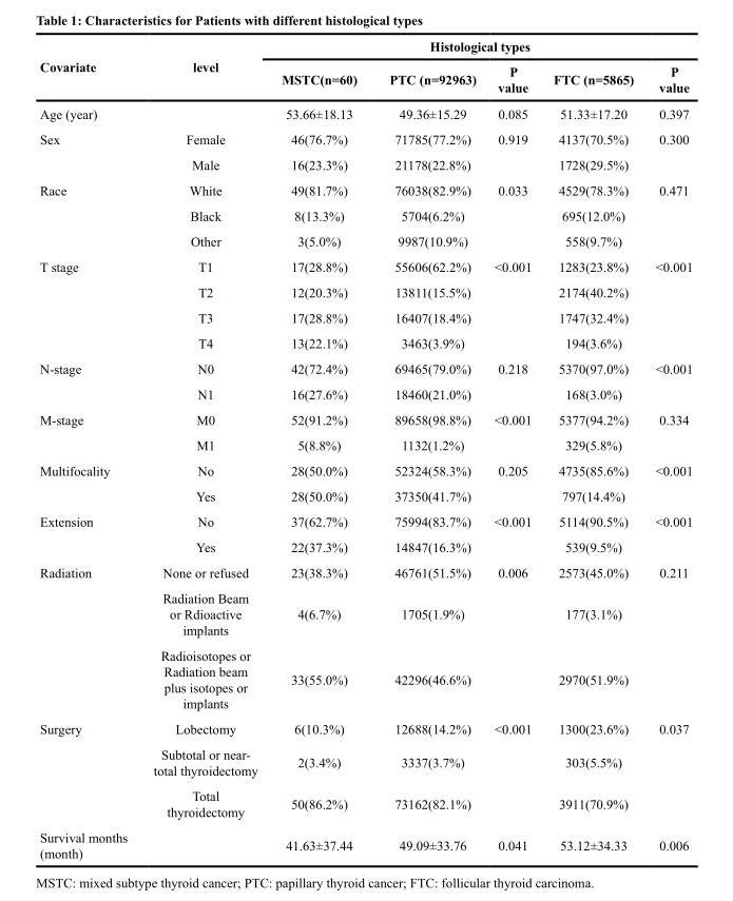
<table><thead><tr><td rowspan="2">Covariate</td><td rowspan="2">level</td><td colspan="5">Histological types</td></tr><tr><td>MSTC(n=60)</td><td>PTC (n=92963)</td><td>P value</td><td>FTC (n=5865)</td><td>P value</td></tr></thead><tbody><tr><td>Age (year)</td><td></td><td>53.66±18.13</td><td>49.36±15.29</td><td>0.085</td><td>51.33±17.20</td><td>0.397</td></tr><tr><td rowspan="2">Sex</td><td>Female</td><td>46(76.7%)</td><td>71785(77.2%)</td><td>0.919</td><td>4137(70.5%)</td><td>0.300</td></tr><tr><td>Male</td><td>16(23.3%)</td><td>21178(22.8%)</td><td></td><td>1728(29.5%)</td><td></td></tr><tr><td rowspan="3">Race</td><td>White</td><td>49(81.7%)</td><td>76038(82.9%)</td><td>0.033</td><td>4529(78.3%)</td><td>0.471</td></tr><tr><td>Black</td><td>8(13.3%)</td><td>5704(6.2%)</td><td></td><td>695(12.0%)</td><td></td></tr><tr><td>Other</td><td>3(5.0%)</td><td>9987(10.9%)</td><td></td><td>558(9.7%)</td><td></td></tr><tr><td rowspan="4">T stage</td><td>T1</td><td>17(28.8%)</td><td>55606(62.2%)</td><td>&lt;0.001</td><td>1283(23.8%)</td><td>&lt;0.001</td></tr><tr><td>T2</td><td>12(20.3%)</td><td>13811(15.5%)</td><td></td><td>2174(40.2%)</td><td></td></tr><tr><td>T3</td><td>17(28.8%)</td><td>16407(18.4%)</td><td></td><td>1747(32.4%)</td><td></td></tr><tr><td>T4</td><td>13(22.1%)</td><td>3463(3.9%)</td><td></td><td>194(3.6%)</td><td></td></tr><tr><td rowspan="2">N-stage</td><td>N0</td><td>42(72.4%)</td><td>69465(79.0%)</td><td>0.218</td><td>5370(97.0%)</td><td>&lt;0.001</td></tr><tr><td>N1</td><td>16(27.6%)</td><td>18460(21.0%)</td><td></td><td>168(3.0%)</td><td></td></tr><tr><td rowspan="2">M-stage</td><td>M0</td><td>52(91.2%)</td><td>89658(98.8%)</td><td>&lt;0.001</td><td>5377(94.2%)</td><td>0.334</td></tr><tr><td>M1</td><td>5(8.8%)</td><td>1132(1.2%)</td><td></td><td>329(5.8%)</td><td></td></tr><tr><td rowspan="2">Multifocality</td><td>No</td><td>28(50.0%)</td><td>52324(58.3%)</td><td>0.205</td><td>4735(85.6%)</td><td>&lt;0.001</td></tr><tr><td>Yes</td><td>28(50.0%)</td><td>37350(41.7%)</td><td></td><td>797(14.4%)</td><td></td></tr><tr><td rowspan="2">Extension</td><td>No</td><td>37(62.7%)</td><td>75994(83.7%)</td><td>&lt;0.001</td><td>5114(90.5%)</td><td>&lt;0.001</td></tr><tr><td>Yes</td><td>22(37.3%)</td><td>14847(16.3%)</td><td></td><td>539(9.5%)</td><td></td></tr><tr><td rowspan="3">Radiation</td><td>None or refused</td><td>23(38.3%)</td><td>46761(51.5%)</td><td>0.006</td><td>2573(45.0%)</td><td>0.211</td></tr><tr><td>Radiation Beam or Rdioactive implants</td><td>4(6.7%)</td><td>1705(1.9%)</td><td></td><td>177(3.1%)</td><td></td></tr><tr><td>Radioisotopes or Radiation beam plus isotopes or implants</td><td>33(55.0%)</td><td>42296(46.6%)</td><td></td><td>2970(51.9%)</td><td></td></tr><tr><td rowspan="3">Surgery</td><td>Lobectomy</td><td>6(10.3%)</td><td>12688(14.2%)</td><td>&lt;0.001</td><td>1300(23.6%)</td><td>0.037</td></tr><tr><td>Subtotal or near- total thyroidectomy</td><td>2(3.4%)</td><td>3337(3.7%)</td><td></td><td>303(5.5%)</td><td></td></tr><tr><td>Total thyroidectomy</td><td>50(86.2%)</td><td>73162(82.1%)</td><td></td><td>3911(70.9%)</td><td></td></tr><tr><td>Survival months (month)</td><td></td><td>41.63±37.44</td><td>49.09±33.76</td><td>0.041</td><td>53.12±34.33</td><td>0.006</td></tr></tbody></table>